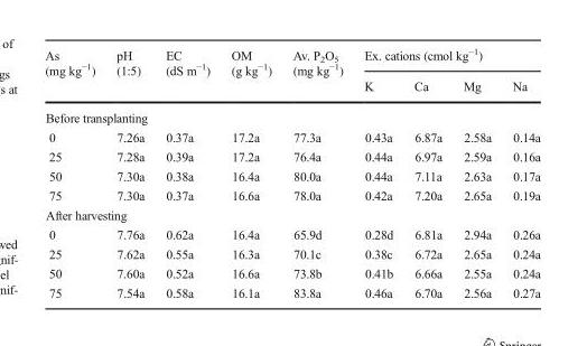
<table><thead><tr><td rowspan="2">As (mg kg<sup>−1</sup>)</td><td rowspan="2">pH (1:5)</td><td rowspan="2">EC (dS m<sup>−1</sup>)</td><td rowspan="2">OM (g kg<sup>−1</sup>)</td><td rowspan="2">Av. P<sub>2</sub>O<sub>5</sub> (mg kg<sup>−1</sup>)</td><td colspan="4">Ex. cations (cmol kg<sup>−1</sup>)</td></tr><tr><td>K</td><td>Ca</td><td>Mg</td><td>Na</td></tr></thead><tbody><tr><td colspan="9">Before transplanting</td></tr><tr><td>0</td><td>7.26a</td><td>0.37a</td><td>17.2a</td><td>77.3a</td><td>0.43a</td><td>6.87a</td><td>2.58a</td><td>0.14a</td></tr><tr><td>25</td><td>7.28a</td><td>0.39a</td><td>17.2a</td><td>76.4a</td><td>0.44a</td><td>6.97a</td><td>2.59a</td><td>0.16a</td></tr><tr><td>50</td><td>7.30a</td><td>0.38a</td><td>16.4a</td><td>80.0a</td><td>0.44a</td><td>7.11a</td><td>2.63a</td><td>0.17a</td></tr><tr><td>75</td><td>7.30a</td><td>0.37a</td><td>16.6a</td><td>78.0a</td><td>0.42a</td><td>7.20a</td><td>2.65a</td><td>0.19a</td></tr><tr><td colspan="9">After harvesting</td></tr><tr><td>0</td><td>7.76a</td><td>0.62a</td><td>16.4a</td><td>65.9d</td><td>0.28d</td><td>6.81a</td><td>2.94a</td><td>0.26a</td></tr><tr><td>25</td><td>7.62a</td><td>0.55a</td><td>16.3a</td><td>70.1c</td><td>0.38c</td><td>6.72a</td><td>2.65a</td><td>0.24a</td></tr><tr><td>50</td><td>7.60a</td><td>0.52a</td><td>16.6a</td><td>73.8b</td><td>0.41b</td><td>6.66a</td><td>2.55a</td><td>0.24a</td></tr><tr><td>75</td><td>7.54a</td><td>0.58a</td><td>16.1a</td><td>83.8a</td><td>0.46a</td><td>6.70a</td><td>2.56a</td><td>0.27a</td></tr></tbody></table>